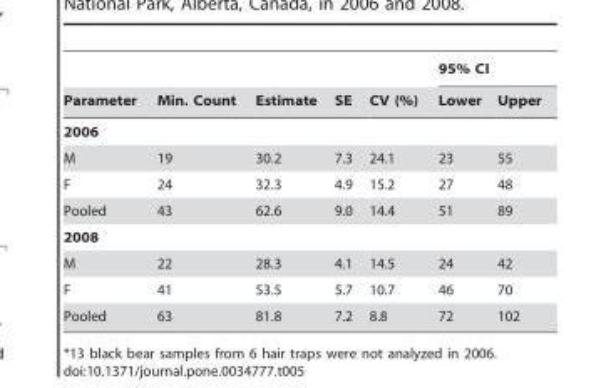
<table><thead><tr><td rowspan="2">Parameter</td><td rowspan="2">Min. Count</td><td rowspan="2">Estimate</td><td rowspan="2">SE</td><td rowspan="2">CV (%)</td><td colspan="2">95% CI</td></tr><tr><td>Lower</td><td>Upper</td></tr></thead><tbody><tr><td colspan="7">2006</td></tr><tr><td>M</td><td>19</td><td>30.2</td><td>7.3</td><td>24.1</td><td>23</td><td>55</td></tr><tr><td>F</td><td>24</td><td>32.3</td><td>4.9</td><td>15.2</td><td>27</td><td>48</td></tr><tr><td>Pooled</td><td>43</td><td>62.6</td><td>9.0</td><td>14.4</td><td>51</td><td>89</td></tr><tr><td colspan="7">2008</td></tr><tr><td>M</td><td>22</td><td>28.3</td><td>4.1</td><td>14.5</td><td>24</td><td>42</td></tr><tr><td>F</td><td>41</td><td>53.5</td><td>5.7</td><td>10.7</td><td>46</td><td>70</td></tr><tr><td>Pooled</td><td>63</td><td>81.8</td><td>7.2</td><td>8.8</td><td>72</td><td>102</td></tr></tbody></table>